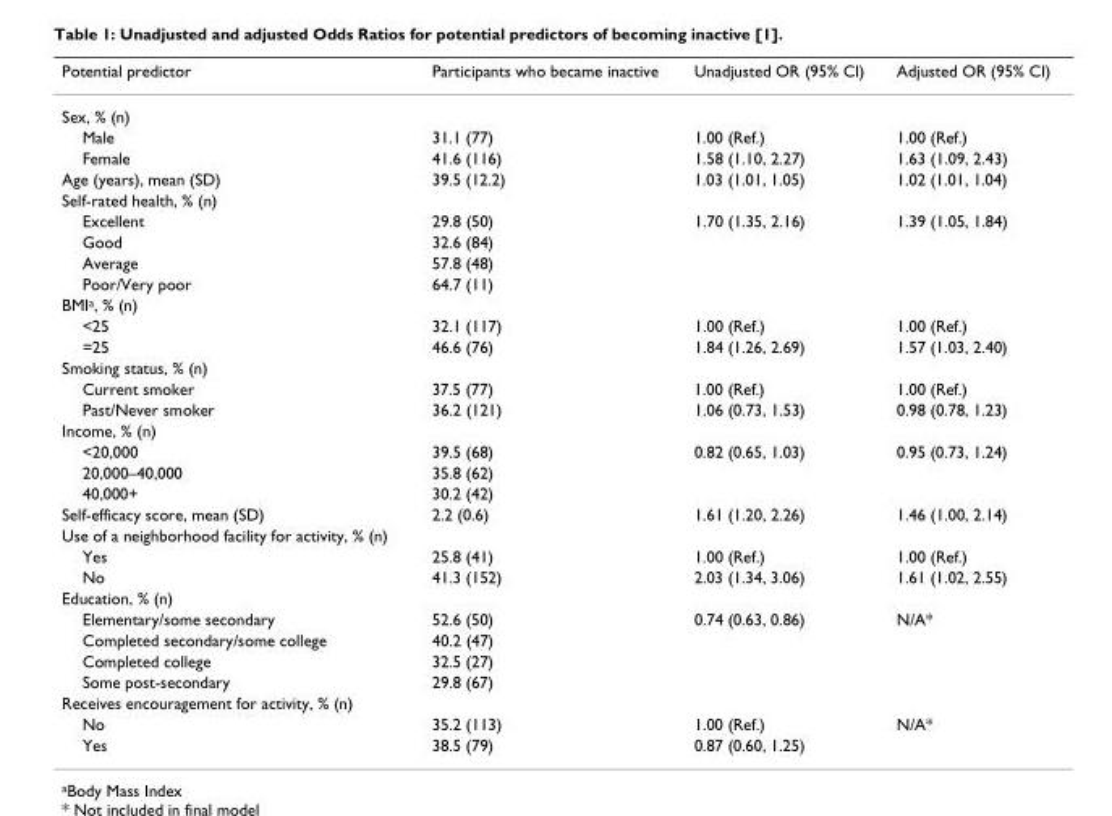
<table><thead><tr><td>Potential predictor</td><td>Participants who became inactive</td><td>Unadjusted OR (95% CI)</td><td>Adjusted OR (95% CI)</td></tr></thead><tbody><tr><td colspan="4">Sex, % (n)</td></tr><tr><td>Male</td><td>31.1 (77)</td><td>1.00 (Ref.)</td><td>1.00 (Ref.)</td></tr><tr><td>Female</td><td>41.6 (116)</td><td>1.58 (1.10, 2.27)</td><td>1.63 (1.09, 2.43)</td></tr><tr><td>Age (years), mean (SD)</td><td>39.5 (12.2)</td><td>1.03 (1.01, 1.05)</td><td>1.02 (1.01, 1.04)</td></tr><tr><td colspan="4">Self-rated health, % (n)</td></tr><tr><td>Excellent</td><td>29.8 (50)</td><td>1.70 (1.35, 2.16)</td><td>1.39 (1.05, 1.84)</td></tr><tr><td>Good</td><td>32.6 (84)</td><td></td><td></td></tr><tr><td>Average</td><td>57.8 (48)</td><td></td><td></td></tr><tr><td>Poor/Very poor</td><td>64.7 (11)</td><td></td><td></td></tr><tr><td colspan="4">BMIa, % (n)</td></tr><tr><td>&lt;25</td><td>32.1 (117)</td><td>1.00 (Ref.)</td><td>1.00 (Ref.)</td></tr><tr><td>=25</td><td>46.6 (76)</td><td>1.84 (1.26, 2.69)</td><td>1.57 (1.03, 2.40)</td></tr><tr><td colspan="4">Smoking status, % (n)</td></tr><tr><td>Current smoker</td><td>37.5 (77)</td><td>1.00 (Ref.)</td><td>1.00 (Ref.)</td></tr><tr><td>Past/Never smoker</td><td>36.2 (121)</td><td>1.06 (0.73, 1.53)</td><td>0.98 (0.78, 1.23)</td></tr><tr><td colspan="4">Income, % (n)</td></tr><tr><td>&lt;20,000</td><td>39.5 (68)</td><td>0.82 (0.65, 1.03)</td><td>0.95 (0.73, 1.24)</td></tr><tr><td>20,000–40,000</td><td>35.8 (62)</td><td></td><td></td></tr><tr><td>40,000+</td><td>30.2 (42)</td><td></td><td></td></tr><tr><td>Self-efficacy score, mean (SD)</td><td>2.2 (0.6)</td><td>1.61 (1.20, 2.26)</td><td>1.46 (1.00, 2.14)</td></tr><tr><td colspan="4">Use of a neighborhood facility for activity, % (n)</td></tr><tr><td>Yes</td><td>25.8 (41)</td><td>1.00 (Ref.)</td><td>1.00 (Ref.)</td></tr><tr><td>No</td><td>41.3 (152)</td><td>2.03 (1.34, 3.06)</td><td>1.61 (1.02, 2.55)</td></tr><tr><td colspan="4">Education, % (n)</td></tr><tr><td>Elementary/some secondary</td><td>52.6 (50)</td><td>0.74 (0.63, 0.86)</td><td>N/A*</td></tr><tr><td>Completed secondary/some college</td><td>40.2 (47)</td><td></td><td></td></tr><tr><td>Completed college</td><td>32.5 (27)</td><td></td><td></td></tr><tr><td>Some post-secondary</td><td>29.8 (67)</td><td></td><td></td></tr><tr><td colspan="4">Receives encouragement for activity, % (n)</td></tr><tr><td>No</td><td>35.2 (113)</td><td>1.00 (Ref.)</td><td>N/A*</td></tr><tr><td>Yes</td><td>38.5 (79)</td><td>0.87 (0.60, 1.25)</td><td></td></tr></tbody></table>